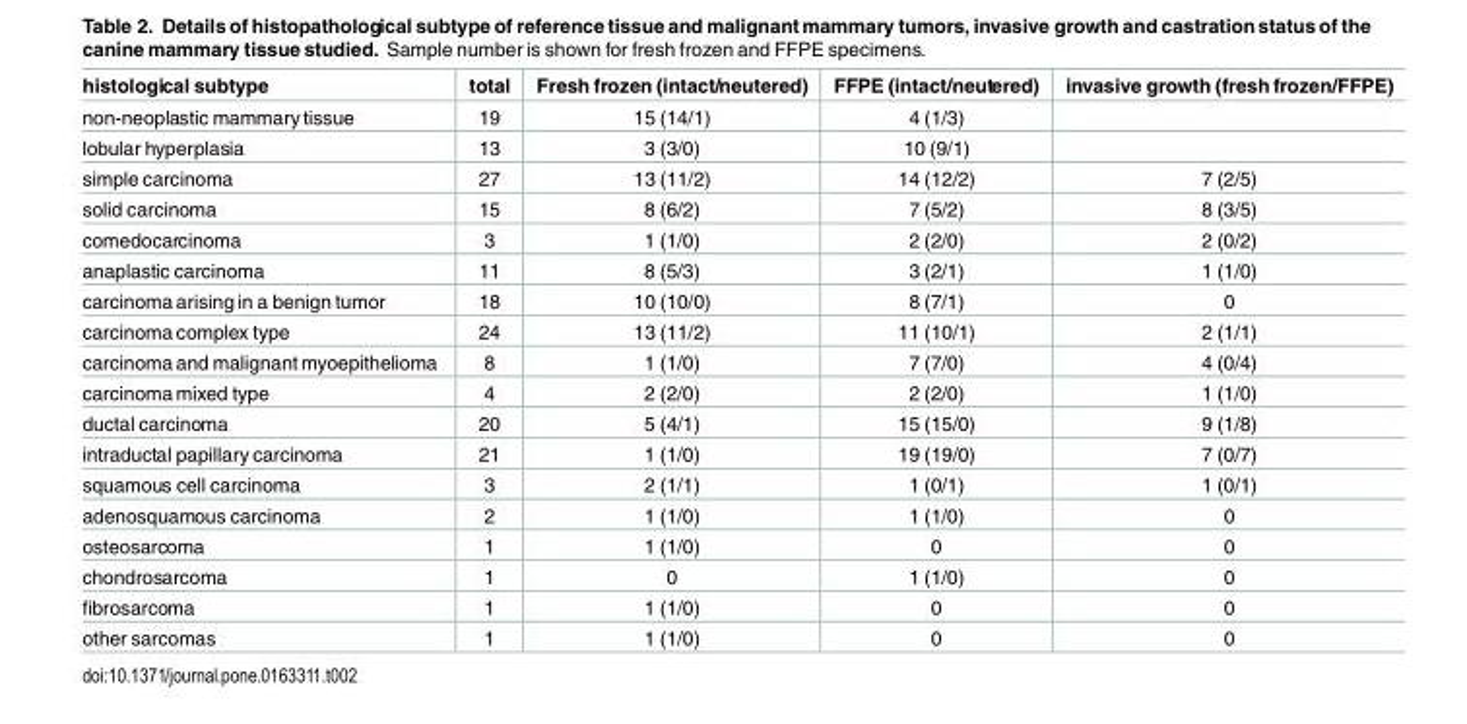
<table><thead><tr><td>histological subtype</td><td>total</td><td>Fresh frozen (intact/neutered)</td><td>FFPE (intact/neutered)</td><td>invasive growth (fresh frozen/FFPE)</td></tr></thead><tbody><tr><td>non-neoplastic mammarytissue</td><td>19</td><td>15 (14/1)</td><td>4 (1/3)</td><td></td></tr><tr><td>lobular hyperplasia</td><td>13</td><td>3 (3/0)</td><td>10 (9/1)</td><td></td></tr><tr><td>simple carcinoma</td><td>27</td><td>13 (11/2)</td><td>14 (12/2)</td><td>7 (2/5)</td></tr><tr><td>solid carcinoma</td><td>15</td><td>8 (6/2)</td><td>7 (5/2)</td><td>8 (3/5)</td></tr><tr><td>comedocarcinoma</td><td>3</td><td>1 (1/0)</td><td>2 (2/0)</td><td>2 (0/2)</td></tr><tr><td>anaplastic carcinoma</td><td>11</td><td>8 (5/3)</td><td>3 (2/1)</td><td>1 (1/0)</td></tr><tr><td>carcinoma arising in a benign tumor</td><td>18</td><td>10 (10/0)</td><td>8 (7/1)</td><td>0</td></tr><tr><td>carcinoma complex type</td><td>24</td><td>13 (11/2)</td><td>11 (10/1)</td><td>2 (1/1)</td></tr><tr><td>carcinoma and malignant myoepithelioma</td><td>8</td><td>1 (1/0)</td><td>7 (7/0)</td><td>4 (0/4)</td></tr><tr><td>carcinoma mixed type</td><td>4</td><td>2 (2/0)</td><td>2 (2/0)</td><td>1 (1/0)</td></tr><tr><td>ductal carcinoma</td><td>20</td><td>5 (4/1)</td><td>15 (15/0)</td><td>9 (1/8)</td></tr><tr><td>intraductal papillary carcinoma</td><td>21</td><td>1 (1/0)</td><td>19 (19/0)</td><td>7 (0/7)</td></tr><tr><td>squamous cell carcinoma</td><td>3</td><td>2 (1/1)</td><td>1 (0/1)</td><td>1 (0/1)</td></tr><tr><td>adenosquamous carcinoma</td><td>2</td><td>1 (1/0)</td><td>1 (1/0)</td><td>0</td></tr><tr><td>osteosarcoma</td><td>1</td><td>1 (1/0)</td><td>0</td><td>0</td></tr><tr><td>chondrosarcoma</td><td>1</td><td>0</td><td>1 (1/0)</td><td>0</td></tr><tr><td>fibrosarcoma</td><td>1</td><td>1 (1/0)</td><td>0</td><td>0</td></tr><tr><td>other sarcomas</td><td>1</td><td>1 (1/0)</td><td>0</td><td>0</td></tr></tbody></table>